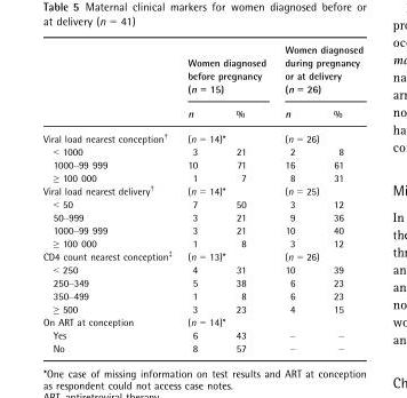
<table><thead><tr><td rowspan="2"></td><td colspan="2">Women diagnosed before pregnancy (n = 15)</td><td colspan="2">Women diagnosed during pregnancy or at delivery (n = 26)</td></tr><tr><td>n</td><td>%</td><td>n</td><td>%</td></tr></thead><tbody><tr><td>Viral load nearest conception†</td><td colspan="2">(n = 14)*</td><td colspan="2">(n = 26)</td></tr><tr><td>&lt; 1000</td><td>3</td><td>21</td><td>2</td><td>8</td></tr><tr><td>1000–99 999</td><td>10</td><td>71</td><td>16</td><td>61</td></tr><tr><td>≥ 100 000</td><td>1</td><td>7</td><td>8</td><td>31</td></tr><tr><td>Viral load nearest delivery†</td><td colspan="2">(n = 14)*</td><td colspan="2">(n = 25)</td></tr><tr><td>&lt; 50</td><td>7</td><td>50</td><td>3</td><td>12</td></tr><tr><td>50–999</td><td>3</td><td>21</td><td>9</td><td>36</td></tr><tr><td>1000–99 999</td><td>3</td><td>21</td><td>10</td><td>40</td></tr><tr><td>≥ 100 000</td><td>1</td><td>8</td><td>3</td><td>12</td></tr><tr><td>CD4 count nearest conception‡</td><td colspan="2">(n = 13)*</td><td colspan="2">(n = 26)</td></tr><tr><td>&lt; 250</td><td>4</td><td>31</td><td>10</td><td>39</td></tr><tr><td>250–349</td><td>5</td><td>38</td><td>6</td><td>23</td></tr><tr><td>350–499</td><td>1</td><td>8</td><td>6</td><td>23</td></tr><tr><td>≥ 500</td><td>3</td><td>23</td><td>4</td><td>15</td></tr><tr><td>On ART at conception</td><td colspan="2">(n = 14)*</td><td colspan="2"></td></tr><tr><td>Yes</td><td>6</td><td>43</td><td>–</td><td>–</td></tr><tr><td>No</td><td>8</td><td>57</td><td>–</td><td>–</td></tr></tbody></table>